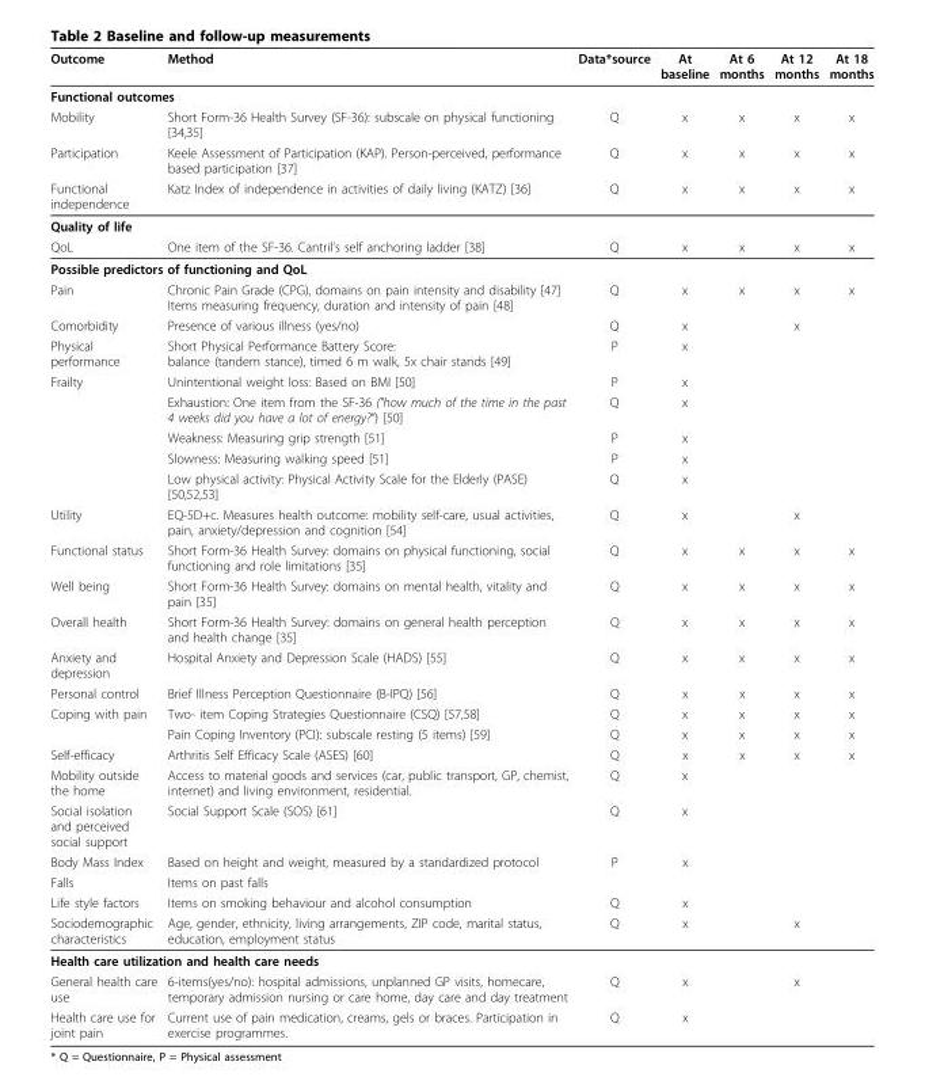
<table><thead><tr><td>Outcome</td><td>Method</td><td>Data*source</td><td>At baseline</td><td>At 6 months</td><td>At 12 months</td><td>At 18 months</td></tr></thead><tbody><tr><td colspan="7">Functional outcomes</td></tr><tr><td>Mobility</td><td>Short Form-36 Health Survey (SF-36): subscale on physical functioning [34,35]</td><td>Q</td><td>x</td><td>x</td><td>x</td><td>x</td></tr><tr><td>Participation</td><td>Keele Assessment of Participation (KAP). Person-perceived, performance based participation [37]</td><td>Q</td><td>x</td><td>x</td><td>x</td><td>x</td></tr><tr><td>Functional independence</td><td>Katz Index of independence in activities of daily living (KATZ) [36]</td><td>Q</td><td>x</td><td>x</td><td>x</td><td>x</td></tr><tr><td colspan="7">Quality of life</td></tr><tr><td>QoL</td><td>One item of the SF-36. Cantril’s self anchoring ladder [38]</td><td>Q</td><td>x</td><td>x</td><td>x</td><td>x</td></tr><tr><td colspan="7">Possible predictors of functioning and QoL</td></tr><tr><td>Pain</td><td>Chronic Pain Grade (CPG), domains on pain intensity and disability [47] Items measuring frequency, duration and intensity of pain [48]</td><td>Q</td><td>x</td><td>x</td><td>x</td><td>x</td></tr><tr><td>Comorbidity</td><td>Presence of various illness (yes/no)</td><td>Q</td><td>x</td><td></td><td>x</td><td></td></tr><tr><td>Physical performance</td><td>Short Physical Performance Battery Score: balance (tandem stance), timed 6 m walk, 5x chair stands [49]</td><td>P</td><td>x</td><td></td><td></td><td></td></tr><tr><td rowspan="5">Frailty</td><td>Unintentional weight loss: Based on BMI [50]</td><td>P</td><td>x</td><td></td><td></td><td></td></tr><tr><td>Exhaustion: One item from the SF-36 (&quot;how much of the time in the past 4 weeks did you have a lot of energy?“) [50]</td><td>Q</td><td>x</td><td></td><td></td><td></td></tr><tr><td>Weakness: Measuring grip strength [51]</td><td>P</td><td>x</td><td></td><td></td><td></td></tr><tr><td>Slowness: Measuring walking speed [51]</td><td>P</td><td>x</td><td></td><td></td><td></td></tr><tr><td>Low physical activity: Physical Activity Scale for the Elderly (PASE) [50,52,53]</td><td>Q</td><td>x</td><td></td><td></td><td></td></tr><tr><td>Utility</td><td>EQ-5D+c. Measures health outcome: mobility self-care, usual activities, pain, anxiety/depression and cognition [54]</td><td>Q</td><td>x</td><td></td><td>x</td><td></td></tr><tr><td>Functional status</td><td>Short Form-36 Health Survey: domains on physical functioning, social functioning and role limitations [35]</td><td>Q</td><td>x</td><td>x</td><td>x</td><td>x</td></tr><tr><td>Well being</td><td>Short Form-36 Health Survey: domains on mental health, vitality and pain [35]</td><td>Q</td><td>x</td><td>x</td><td>x</td><td>x</td></tr><tr><td>Overall health</td><td>Short Form-36 Health Survey: domains on general health perception and health change [35]</td><td>Q</td><td>x</td><td>x</td><td>x</td><td>x</td></tr><tr><td>Anxiety and depression</td><td>Hospital Anxiety and Depression Scale (HADS) [55]</td><td>Q</td><td>x</td><td>x</td><td>x</td><td>x</td></tr><tr><td>Personal control</td><td>Brief Illness Perception Questionnaire (B-IPQ) [56]</td><td>Q</td><td>x</td><td>x</td><td>x</td><td>x</td></tr><tr><td rowspan="2">Coping with pain</td><td>Two- item Coping Strategies Questionnaire (CSQ) [57,58]</td><td>Q</td><td>x</td><td>x</td><td>x</td><td>x</td></tr><tr><td>Pain Coping Inventory (PCI): subscale resting (5 items) [59]</td><td>Q</td><td>x</td><td>x</td><td>x</td><td>x</td></tr><tr><td>Self-efficacy</td><td>Arthritis Self Efficacy Scale (ASES) [60]</td><td>Q</td><td>x</td><td>x</td><td>x</td><td>x</td></tr><tr><td>Mobility outside the home</td><td>Access to material goods and services (car, public transport, GP, chemist, internet) and living environment, residential.</td><td>Q</td><td>x</td><td></td><td></td><td></td></tr><tr><td>Social isolation and perceived social support</td><td>Social Support Scale (SOS) [61]</td><td>Q</td><td>x</td><td></td><td></td><td></td></tr><tr><td>Body Mass Index</td><td>Based on height and weight, measured by a standardized protocol</td><td>P</td><td>x</td><td></td><td></td><td></td></tr><tr><td>Falls</td><td>Items on past falls</td><td></td><td></td><td></td><td></td><td></td></tr><tr><td>Life style factors</td><td>Items on smoking behaviour and alcohol consumption</td><td>Q</td><td>x</td><td></td><td></td><td></td></tr><tr><td>Sociodemographic characteristics</td><td>Age, gender, ethnicity, living arrangements, ZIP code, marital status, education, employment status</td><td>Q</td><td>x</td><td></td><td>x</td><td></td></tr><tr><td colspan="7">Health care utilization and health care needs</td></tr><tr><td>General health care use</td><td>6-items(yes/no): hospital admissions, unplanned GP visits, homecare, temporary admission nursing or care home, day care and day treatment</td><td>Q</td><td>x</td><td></td><td>x</td><td></td></tr><tr><td>Health care use for joint pain</td><td>Current use of pain medication, creams, gels or braces. Participation in exercise programmes.</td><td>Q</td><td>x</td><td></td><td></td><td></td></tr></tbody></table>